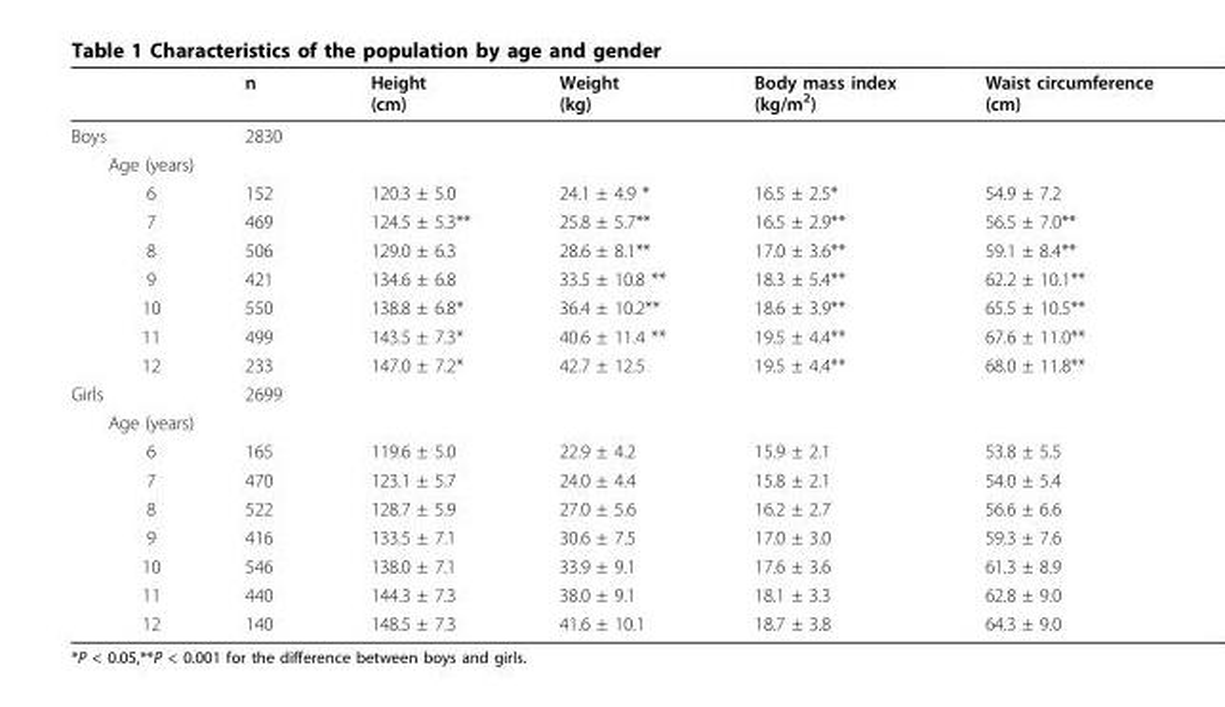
<table><thead><tr><td></td><td>n</td><td>Height (cm)</td><td>Weight (kg)</td><td>Body mass index (kg/m<sup>2</sup>)</td><td>Waist circumference (cm)</td></tr></thead><tbody><tr><td>Boys</td><td>2830</td><td></td><td></td><td></td><td></td></tr><tr><td colspan="6">Age (years)</td></tr><tr><td>6</td><td>152</td><td>120.3 ± 5.0</td><td>24.1 ± 4.9 *</td><td>16.5 ± 2.5*</td><td>54.9 ± 7.2</td></tr><tr><td>7</td><td>469</td><td>124.5 ± 5.3**</td><td>25.8 ± 5.7**</td><td>16.5 ± 2.9**</td><td>56.5 ± 7.0**</td></tr><tr><td>8</td><td>506</td><td>129.0 ± 6.3</td><td>28.6 ± 8.1**</td><td>17.0 ± 3.6**</td><td>59.1 ± 8.4**</td></tr><tr><td>9</td><td>421</td><td>134.6 ± 6.8</td><td>33.5 ± 10.8 **</td><td>18.3 ± 5.4**</td><td>62.2 ± 10.1**</td></tr><tr><td>10</td><td>550</td><td>138.8 ± 6.8*</td><td>36.4 ± 10.2**</td><td>18.6 ± 3.9**</td><td>65.5 ± 10.5**</td></tr><tr><td>11</td><td>499</td><td>143.5 ± 7.3*</td><td>40.6 ± 11.4 **</td><td>19.5 ± 4.4**</td><td>67.6 ± 11.0**</td></tr><tr><td>12</td><td>233</td><td>147.0 ± 7.2*</td><td>42.7 ± 12.5</td><td>19.5 ± 4.4**</td><td>68.0 ± 11.8**</td></tr><tr><td>Girls</td><td>2699</td><td></td><td></td><td></td><td></td></tr><tr><td colspan="6">Age (years)</td></tr><tr><td>6</td><td>165</td><td>119.6 ± 5.0</td><td>22.9 ± 4.2</td><td>15.9 ± 2.1</td><td>53.8 ± 5.5</td></tr><tr><td>7</td><td>470</td><td>123.1 ± 5.7</td><td>24.0 ± 4.4</td><td>15.8 ± 2.1</td><td>54.0 ± 5.4</td></tr><tr><td>8</td><td>522</td><td>128.7 ± 5.9</td><td>27.0 ± 5.6</td><td>16.2 ± 2.7</td><td>56.6 ± 6.6</td></tr><tr><td>9</td><td>416</td><td>133.5 ± 7.1</td><td>30.6 ± 7.5</td><td>17.0 ± 3.0</td><td>59.3 ± 7.6</td></tr><tr><td>10</td><td>546</td><td>138.0 ± 7.1</td><td>33.9 ± 9.1</td><td>17.6 ± 3.6</td><td>61.3 ± 8.9</td></tr><tr><td>11</td><td>440</td><td>144.3 ± 7.3</td><td>38.0 ± 9.1</td><td>18.1 ± 3.3</td><td>62.8 ± 9.0</td></tr><tr><td>12</td><td>140</td><td>148.5 ± 7.3</td><td>41.6 ± 10.1</td><td>18.7 ± 3.8</td><td>64.3 ± 9.0</td></tr></tbody></table>